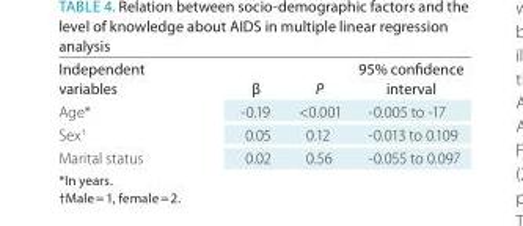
<table><thead><tr><td>Independent variables</td><td>β</td><td>P</td><td>95% confidence interval</td></tr></thead><tbody><tr><td>Age*</td><td>-0.19</td><td>&lt;0.001</td><td>-0.005 to -17</td></tr><tr><td>Sex<sup>†</sup></td><td>0.05</td><td>0.12</td><td>-0.013 to 0.109</td></tr><tr><td>Marital status</td><td>0.02</td><td>0.56</td><td>-0.055 to 0.097</td></tr></tbody></table>